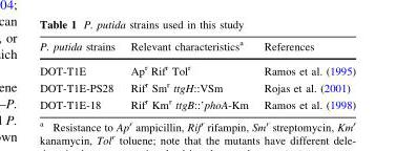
<table><thead><tr><td>P. putida strains</td><td>Relevant characteristics<sup>a</sup></td><td>References</td></tr></thead><tbody><tr><td>DOT-T1E</td><td>Ap<sup>r</sup> Rif<sup>r</sup> Tol<sup>r</sup></td><td>Ramos et al. (1995)</td></tr><tr><td>DOT-T1E-PS28</td><td>Rif<sup>r</sup> Sm<sup>r</sup> ttgH::VSm</td><td>Rojas et al. (2001)</td></tr><tr><td>DOT-T1E-18</td><td>Rif<sup>r</sup> Km<sup>r</sup> ttgB::’phoA-Km</td><td>Ramos et al. (1998)</td></tr></tbody></table>